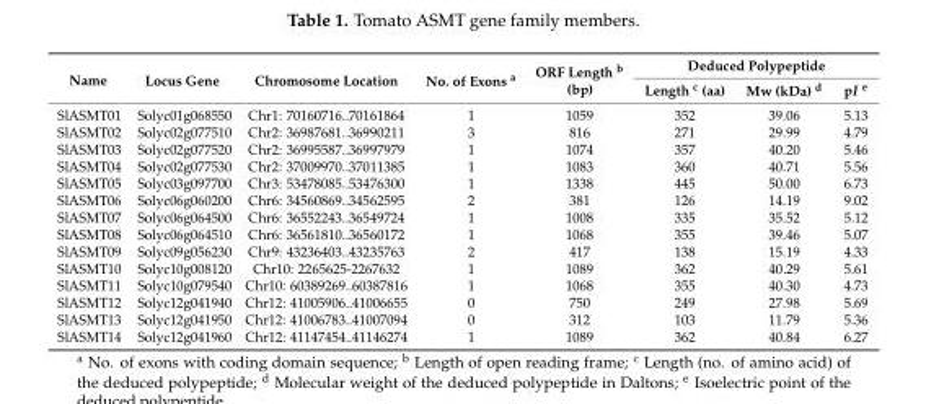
<table><thead><tr><td rowspan="2">Name</td><td rowspan="2">Locus Gene</td><td rowspan="2">Chromosome Location</td><td rowspan="2">No. of Exons <sup>a</sup></td><td rowspan="2">ORF Length <sup>b</sup> (bp)</td><td colspan="3">Deduced Polypeptide</td></tr><tr><td>Length <sup>c</sup> (aa)</td><td>Mw (kDa) <sup>d</sup></td><td>pI <sup>e</sup></td></tr></thead><tbody><tr><td>SlASMT01</td><td>Solyc01g068550</td><td>Chr1: 70160716..70161864</td><td>1</td><td>1059</td><td>352</td><td>39.06</td><td>5.13</td></tr><tr><td>SlASMT02</td><td>Solyc02g077510</td><td>Chr2: 36987681..36990211</td><td>3</td><td>816</td><td>271</td><td>29.99</td><td>4.79</td></tr><tr><td>SlASMT03</td><td>Solyc02g077520</td><td>Chr2: 36995587..36997979</td><td>1</td><td>1074</td><td>357</td><td>40.20</td><td>5.46</td></tr><tr><td>SlASMT04</td><td>Solyc02g077530</td><td>Chr2: 37009970..37011385</td><td>1</td><td>1083</td><td>360</td><td>40.71</td><td>5.56</td></tr><tr><td>SlASMT05</td><td>Solyc03g097700</td><td>Chr3: 53478085..53476300</td><td>1</td><td>1338</td><td>445</td><td>50.00</td><td>6.73</td></tr><tr><td>SlASMT06</td><td>Solyc06g060200</td><td>Chr6: 34560869..34562595</td><td>2</td><td>381</td><td>126</td><td>14.19</td><td>9.02</td></tr><tr><td>SlASMT07</td><td>Solyc06g064500</td><td>Chr6: 36552243..36549724</td><td>1</td><td>1008</td><td>335</td><td>35.52</td><td>5.12</td></tr><tr><td>SlASMT08</td><td>Solyc06g064510</td><td>Chr6: 36561810..36560172</td><td>1</td><td>1068</td><td>355</td><td>39.46</td><td>5.07</td></tr><tr><td>SlASMT09</td><td>Solyc09g056230</td><td>Chr9: 43236403..43235763</td><td>2</td><td>417</td><td>138</td><td>15.19</td><td>4.33</td></tr><tr><td>SlASMT10</td><td>Solyc10g008120</td><td>Chr10: 2265625-2267632</td><td>1</td><td>1089</td><td>362</td><td>40.29</td><td>5.61</td></tr><tr><td>SlASMT11</td><td>Solyc10g079540</td><td>Chr10: 60389269..60387816</td><td>1</td><td>1068</td><td>355</td><td>40.30</td><td>4.73</td></tr><tr><td>SlASMT12</td><td>Solyc12g041940</td><td>Chr12: 41005906..41006655</td><td>0</td><td>750</td><td>249</td><td>27.98</td><td>5.69</td></tr><tr><td>SlASMT13</td><td>Solyc12g041950</td><td>Chr12: 41006783..41007094</td><td>0</td><td>312</td><td>103</td><td>11.79</td><td>5.36</td></tr><tr><td>SlASMT14</td><td>Solyc12g041960</td><td>Chr12: 41147454..41146274</td><td>1</td><td>1089</td><td>362</td><td>40.84</td><td>6.27</td></tr></tbody></table>